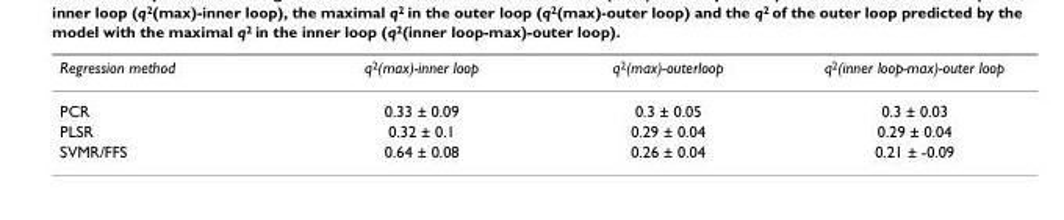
<table><thead><tr><td>Regression method</td><td>q<sup>2</sup>(max)-inner loop</td><td>q<sup>2</sup>(max)-outerloop</td><td>q<sup>2</sup>(inner loop-max)-outer loop</td></tr></thead><tbody><tr><td>PCR</td><td>0.33 ± 0.09</td><td>0.3 ± 0.05</td><td>0.3 ± 0.03</td></tr><tr><td>PLSR</td><td>0.32 ± 0.1</td><td>0.29 ± 0.04</td><td>0.29 ± 0.04</td></tr><tr><td>SVMR/FFS</td><td>0.64 ± 0.08</td><td>0.26 ± 0.04</td><td>0.21 ± -0.09</td></tr></tbody></table>